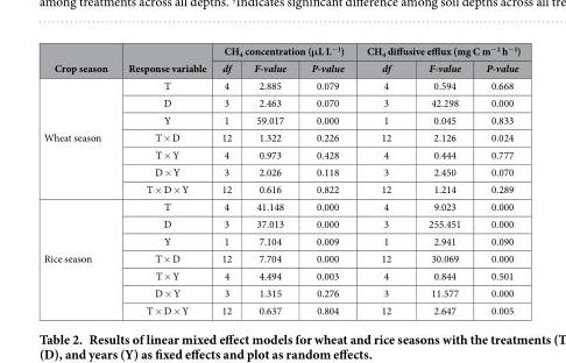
<table><thead><tr><td rowspan="2">Crop season</td><td rowspan="2">Response variable</td><td colspan="3">CH<sub>4</sub> concentration (μL L<sup>−1</sup>)</td><td colspan="3">CH<sub>4</sub> diffusive efflux (mg C m<sup>−2</sup> h<sup>−1</sup>)</td></tr><tr><td>df</td><td>F-value</td><td>P-value</td><td>df</td><td>F-value</td><td>P-value</td></tr></thead><tbody><tr><td rowspan="7">Wheat season</td><td>T</td><td>4</td><td>2.885</td><td>0.079</td><td>4</td><td>0.594</td><td>0.668</td></tr><tr><td>D</td><td>3</td><td>2.463</td><td>0.070</td><td>3</td><td>42.298</td><td>0.000</td></tr><tr><td>Y</td><td>1</td><td>59.017</td><td>0.000</td><td>1</td><td>0.045</td><td>0.833</td></tr><tr><td>T × D</td><td>12</td><td>1.322</td><td>0.226</td><td>12</td><td>2.126</td><td>0.024</td></tr><tr><td>T × Y</td><td>4</td><td>0.973</td><td>0.428</td><td>4</td><td>0.444</td><td>0.777</td></tr><tr><td>D × Y</td><td>3</td><td>2.026</td><td>0.118</td><td>3</td><td>2.450</td><td>0.070</td></tr><tr><td>T × D × Y</td><td>12</td><td>0.616</td><td>0.822</td><td>12</td><td>1.214</td><td>0.289</td></tr><tr><td rowspan="7">Rice season</td><td>T</td><td>4</td><td>41.148</td><td>0.000</td><td>4</td><td>9.023</td><td>0.000</td></tr><tr><td>D</td><td>3</td><td>37.013</td><td>0.000</td><td>3</td><td>255.451</td><td>0.000</td></tr><tr><td>Y</td><td>1</td><td>7.104</td><td>0.009</td><td>1</td><td>2.941</td><td>0.090</td></tr><tr><td>T × D</td><td>12</td><td>7.704</td><td>0.000</td><td>12</td><td>30.069</td><td>0.000</td></tr><tr><td>T × Y</td><td>4</td><td>4.494</td><td>0.003</td><td>4</td><td>0.844</td><td>0.501</td></tr><tr><td>D × Y</td><td>3</td><td>1.315</td><td>0.276</td><td>3</td><td>11.577</td><td>0.000</td></tr><tr><td>T × D × Y</td><td>12</td><td>0.637</td><td>0.804</td><td>12</td><td>2.647</td><td>0.005</td></tr></tbody></table>